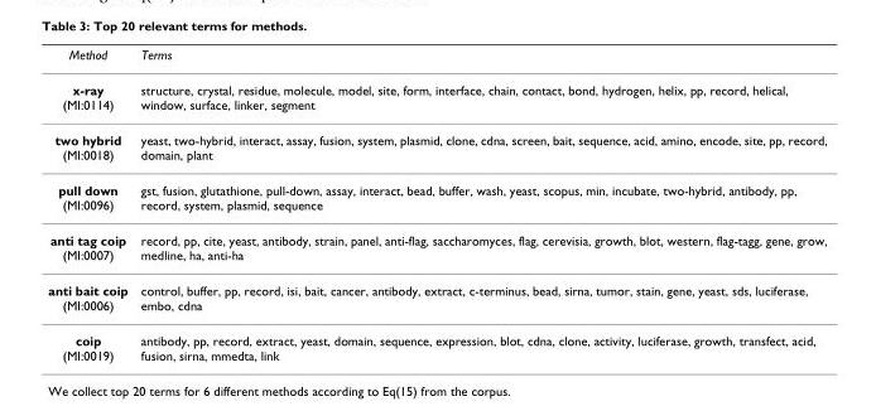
<table><thead><tr><td>Method</td><td>Terms</td></tr></thead><tbody><tr><td>x-ray (MI:0114)</td><td>structure, crystal, residue, molecule, model, site, form, interface, chain, contact, bond, hydrogen, helix, pp, record, helical, window, surface, linker, segment</td></tr><tr><td>two hybrid (MI:0018)</td><td>yeast, two-hybrid, interact, assay, fusion, system, plasmid, clone, cdna, screen, bait, sequence, acid, amino, encode, site, pp, record, domain, plant</td></tr><tr><td>pull down (MI:0096)</td><td>gst, fusion, glutathione, pull-down, assay, interact, bead, buffer, wash, yeast, scopus, min, incubate, two-hybrid, antibody, pp, record, system, plasmid, sequence</td></tr><tr><td>anti tag coip (MI:0007)</td><td>record, pp, cite, yeast, antibody, strain, panel, anti-flag, saccharomyces, flag, cerevisia, growth, blot, western, flag-tagg, gene, grow, medline, ha, anti-ha</td></tr><tr><td>anti bait coip (MI:0006)</td><td>control, buffer, pp, record, isi, bait, cancer, antibody, extract, c-terminus, bead, sirna, tumor, stain, gene, yeast, sds, luciferase, embo, cdna</td></tr><tr><td>coip (MI:0019)</td><td>antibody, pp, record, extract, yeast, domain, sequence, expression, blot, cdna, clone, activity, luciferase, growth, transfect, acid, fusion, sirna, mmedta, link</td></tr></tbody></table>